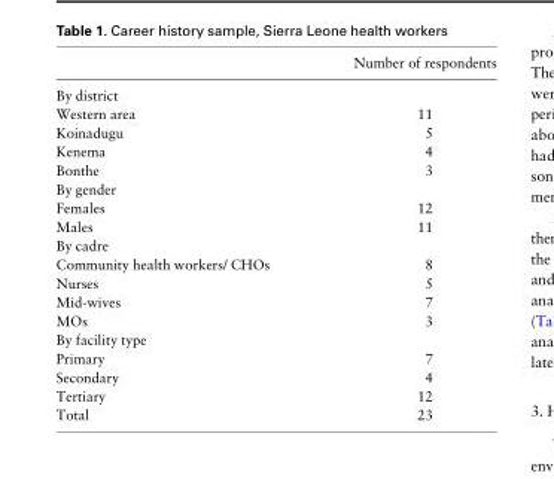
<table><thead><tr><td></td><td>Number of respondents</td></tr></thead><tbody><tr><td colspan="2">By district</td></tr><tr><td>Western area</td><td>11</td></tr><tr><td>Koinadugu</td><td>5</td></tr><tr><td>Kenema</td><td>4</td></tr><tr><td>Bonthe</td><td>3</td></tr><tr><td colspan="2">By gender</td></tr><tr><td>Females</td><td>12</td></tr><tr><td>Males</td><td>11</td></tr><tr><td colspan="2">By cadre</td></tr><tr><td>Community health workers/ CHOs</td><td>8</td></tr><tr><td>Nurses</td><td>5</td></tr><tr><td>Mid-wives</td><td>7</td></tr><tr><td>MOs</td><td>3</td></tr><tr><td colspan="2">By facility type</td></tr><tr><td>Primary</td><td>7</td></tr><tr><td>Secondary</td><td>4</td></tr><tr><td>Tertiary</td><td>12</td></tr><tr><td>Total</td><td>23</td></tr></tbody></table>